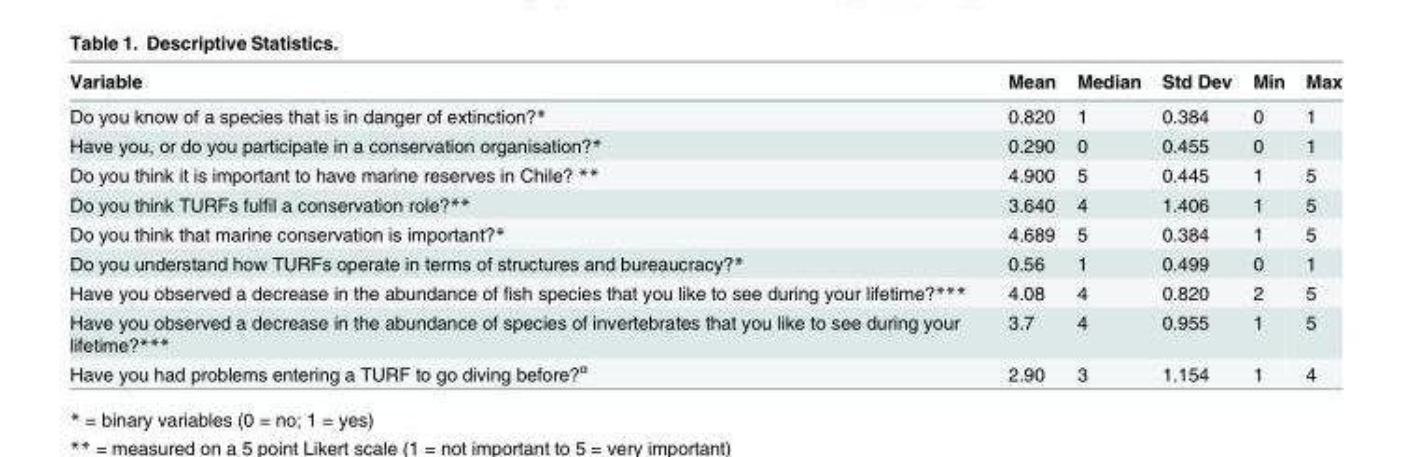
<table><thead><tr><td>Variable</td><td>Mean</td><td>Median</td><td>Std Dev</td><td>Min</td><td>Max</td></tr></thead><tbody><tr><td>Do you know of a species that is in danger of extinction?*</td><td>0.820</td><td>1</td><td>0.384</td><td>0</td><td>1</td></tr><tr><td>Have you, or do you participate in a conservation organisation?*</td><td>0.290</td><td>0</td><td>0.455</td><td>0</td><td>1</td></tr><tr><td>Do you think it is important to have marine reserves in Chile? **</td><td>4.900</td><td>5</td><td>0.445</td><td>1</td><td>5</td></tr><tr><td>Do you think TURFs fulfil a conservation role?**</td><td>3.640</td><td>4</td><td>1.406</td><td>1</td><td>5</td></tr><tr><td>Do you think that marine conservation is important?*</td><td>4.689</td><td>5</td><td>0.384</td><td>1</td><td>5</td></tr><tr><td>Do you understand how TURFs operate in terms of structures and bureaucracy?*</td><td>0.56</td><td>1</td><td>0.499</td><td>0</td><td>1</td></tr><tr><td>Have you observed a decrease in the abundance of fish species that you like to see during your lifetime?***</td><td>4.08</td><td>4</td><td>0.820</td><td>2</td><td>5</td></tr><tr><td>Have you observed a decrease in the abundance of species of invertebrates that you like to see during your lifetime?***</td><td>3.7</td><td>4</td><td>0.955</td><td>1</td><td>5</td></tr><tr><td>Have you had problems entering a TURF to go diving before?<sup>α</sup></td><td>2.90</td><td>3</td><td>1.154</td><td>1</td><td>4</td></tr></tbody></table>